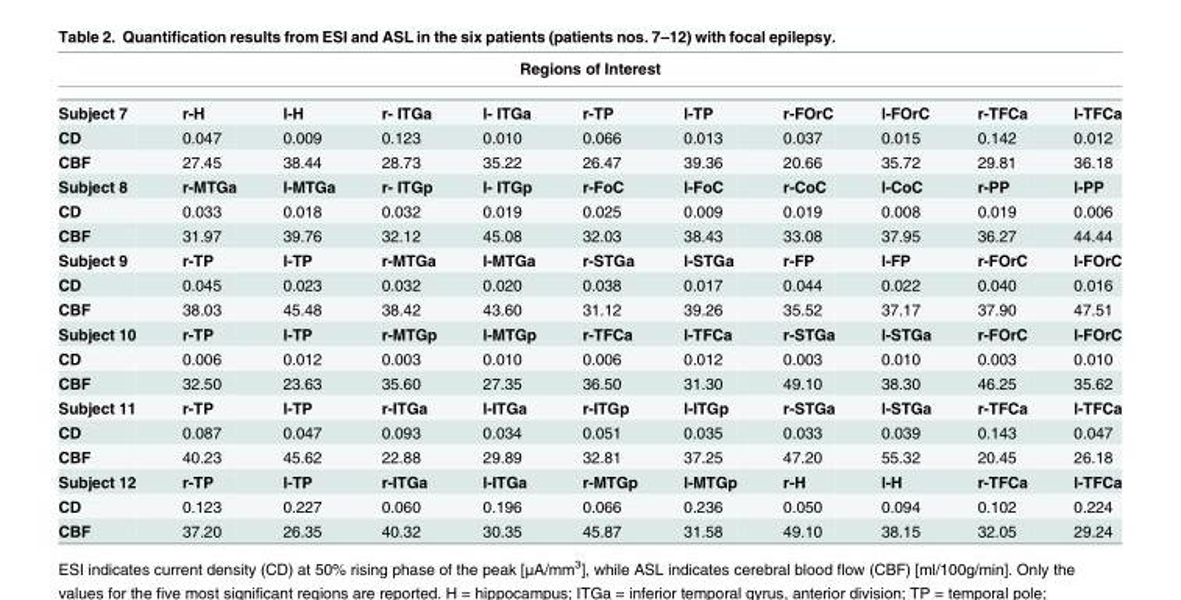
<table><thead><tr><td colspan="11">Regions of Interest</td></tr><tr><td>Subject 7</td><td>r-H</td><td>l-H</td><td>r- ITGa</td><td>l- ITGa</td><td>r-TP</td><td>l-TP</td><td>r-FOrC</td><td>l-FOrC</td><td>r-TFCa</td><td>l-TFCa</td></tr></thead><tbody><tr><td>CD</td><td>0.047</td><td>0.009</td><td>0.123</td><td>0.010</td><td>0.066</td><td>0.013</td><td>0.037</td><td>0.015</td><td>0.142</td><td>0.012</td></tr><tr><td>CBF</td><td>27.45</td><td>38.44</td><td>28.73</td><td>35.22</td><td>26.47</td><td>39.36</td><td>20.66</td><td>35.72</td><td>29.81</td><td>36.18</td></tr><tr><td>Subject 8</td><td>r-MTGa</td><td>l-MTGa</td><td>r- ITGp</td><td>l- ITGp</td><td>r-FoC</td><td>l-FoC</td><td>r-CoC</td><td>l-CoC</td><td>r-PP</td><td>l-PP</td></tr><tr><td>CD</td><td>0.033</td><td>0.018</td><td>0.032</td><td>0.019</td><td>0.025</td><td>0.009</td><td>0.019</td><td>0.008</td><td>0.019</td><td>0.006</td></tr><tr><td>CBF</td><td>31.97</td><td>39.76</td><td>32.12</td><td>45.08</td><td>32.03</td><td>38.43</td><td>33.08</td><td>37.95</td><td>36.27</td><td>44.44</td></tr><tr><td>Subject 9</td><td>r-TP</td><td>l-TP</td><td>r-MTGa</td><td>l-MTGa</td><td>r-STGa</td><td>l-STGa</td><td>r-FP</td><td>l-FP</td><td>r-FOrC</td><td>l-FOrC</td></tr><tr><td>CD</td><td>0.045</td><td>0.023</td><td>0.032</td><td>0.020</td><td>0.038</td><td>0.017</td><td>0.044</td><td>0.022</td><td>0.040</td><td>0.016</td></tr><tr><td>CBF</td><td>38.03</td><td>45.48</td><td>38.42</td><td>43.60</td><td>31.12</td><td>39.26</td><td>35.52</td><td>37.17</td><td>37.90</td><td>47.51</td></tr><tr><td>Subject 10</td><td>r-TP</td><td>l-TP</td><td>r-MTGp</td><td>l-MTGp</td><td>r-TFCa</td><td>l-TFCa</td><td>r-STGa</td><td>l-STGa</td><td>r-FOrC</td><td>l-FOrC</td></tr><tr><td>CD</td><td>0.006</td><td>0.012</td><td>0.003</td><td>0.010</td><td>0.006</td><td>0.012</td><td>0.003</td><td>0.010</td><td>0.003</td><td>0.010</td></tr><tr><td>CBF</td><td>32.50</td><td>23.63</td><td>35.60</td><td>27.35</td><td>36.50</td><td>31.30</td><td>49.10</td><td>38.30</td><td>46.25</td><td>35.62</td></tr><tr><td>Subject 11</td><td>r-TP</td><td>l-TP</td><td>r-ITGa</td><td>l-ITGa</td><td>r-ITGp</td><td>l-ITGp</td><td>r-STGa</td><td>l-STGa</td><td>r-TFCa</td><td>l-TFCa</td></tr><tr><td>CD</td><td>0.087</td><td>0.047</td><td>0.093</td><td>0.034</td><td>0.051</td><td>0.035</td><td>0.033</td><td>0.039</td><td>0.143</td><td>0.047</td></tr><tr><td>CBF</td><td>40.23</td><td>45.62</td><td>22.88</td><td>29.89</td><td>32.81</td><td>37.25</td><td>47.20</td><td>55.32</td><td>20.45</td><td>26.18</td></tr><tr><td>Subject 12</td><td>r-TP</td><td>l-TP</td><td>r-ITGa</td><td>l-ITGa</td><td>r-MTGp</td><td>l-MTGp</td><td>r-H</td><td>l-H</td><td>r-TFCa</td><td>l-TFCa</td></tr><tr><td>CD</td><td>0.123</td><td>0.227</td><td>0.060</td><td>0.196</td><td>0.066</td><td>0.236</td><td>0.050</td><td>0.094</td><td>0.102</td><td>0.224</td></tr><tr><td>CBF</td><td>37.20</td><td>26.35</td><td>40.32</td><td>30.35</td><td>45.87</td><td>31.58</td><td>49.10</td><td>38.15</td><td>32.05</td><td>29.24</td></tr></tbody></table>